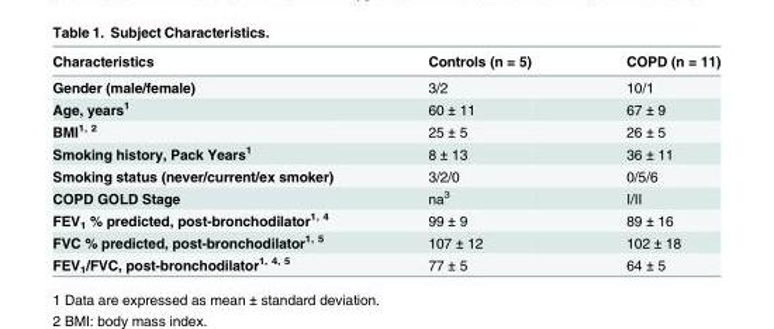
<table><thead><tr><td>Characteristics</td><td>Controls (n = 5)</td><td>COPD (n = 11)</td></tr></thead><tbody><tr><td>Gender (male/female)</td><td>3/2</td><td>10/1</td></tr><tr><td>Age, years<sup>1</sup></td><td>60 ± 11</td><td>67 ± 9</td></tr><tr><td>BMI<sup>1, 2</sup></td><td>25 ± 5</td><td>26 ± 5</td></tr><tr><td>Smoking history, Pack Years<sup>1</sup></td><td>8 ± 13</td><td>36 ± 11</td></tr><tr><td>Smoking status (never/current/ex smoker)</td><td>3/2/0</td><td>0/5/6</td></tr><tr><td>COPD GOLD Stage</td><td>na<sup>3</sup></td><td>I/II</td></tr><tr><td>FEV<sub>1</sub> % predicted, post-bronchodilator<sup>1, 4</sup></td><td>99 ± 9</td><td>89 ± 16</td></tr><tr><td>FVC % predicted, post-bronchodilator<sup>1, 5</sup></td><td>107 ± 12</td><td>102 ± 18</td></tr><tr><td>FEV<sub>1</sub>/FVC, post-bronchodilator<sup>1, 4, 5</sup></td><td>77 ± 5</td><td>64 ± 5</td></tr></tbody></table>